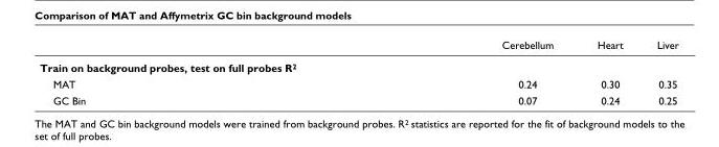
<table><thead><tr><td></td><td>Cerebellum</td><td>Heart</td><td>Liver</td></tr></thead><tbody><tr><td colspan="4">Train on background probes, test on full probes R<sup>2</sup></td></tr><tr><td>MAT</td><td>0.24</td><td>0.30</td><td>0.35</td></tr><tr><td>GC Bin</td><td>0.07</td><td>0.24</td><td>0.25</td></tr></tbody></table>